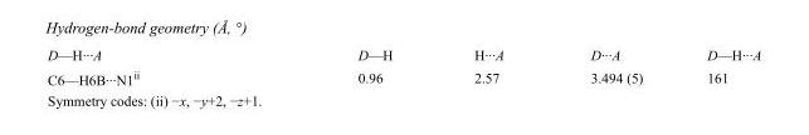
<table><tbody><tr><td>D—H···A</td><td>D—H</td><td>H···A</td><td>D···A</td><td>D—H···A</td></tr><tr><td>C6—H6B···N1<sup>ii</sup></td><td>0.96</td><td>2.57</td><td>3.494 (5)</td><td>161</td></tr></tbody></table>